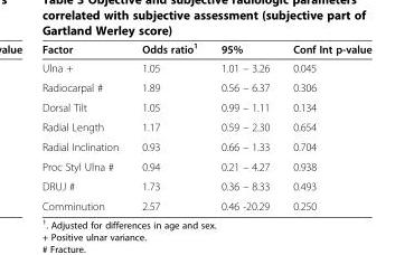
<table><thead><tr><td>Factor</td><td>Odds ratio<sup>1</sup></td><td>95%</td><td>Conf Int p-value</td></tr></thead><tbody><tr><td>Ulna +</td><td>1.05</td><td>1.01 – 3.26</td><td>0.045</td></tr><tr><td>Radiocarpal #</td><td>1.89</td><td>0.56 – 6.37</td><td>0.306</td></tr><tr><td>Dorsal Tilt</td><td>1.05</td><td>0.99 – 1.11</td><td>0.134</td></tr><tr><td>Radial Length</td><td>1.17</td><td>0.59 – 2.30</td><td>0.654</td></tr><tr><td>Radial Inclination</td><td>0.93</td><td>0.66 – 1.33</td><td>0.704</td></tr><tr><td>Proc Styl Ulna #</td><td>0.94</td><td>0.21 – 4.27</td><td>0.938</td></tr><tr><td>DRUJ #</td><td>1.73</td><td>0.36 – 8.33</td><td>0.493</td></tr><tr><td>Comminution</td><td>2.57</td><td>0.46 -20.29</td><td>0.250</td></tr></tbody></table>